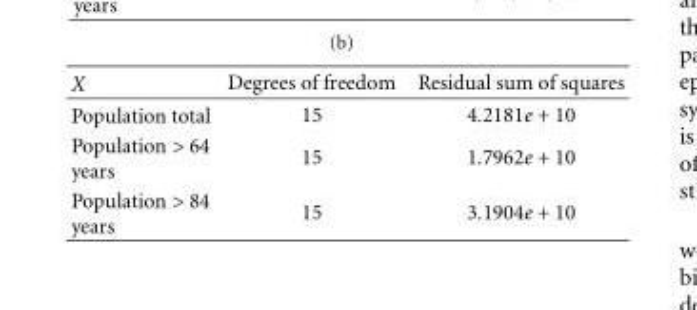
<table><thead><tr><td>X</td><td>Degrees of freedom</td><td>Residual sum of squares</td></tr></thead><tbody><tr><td>Population total</td><td>15</td><td>4.2181e + 10</td></tr><tr><td>Population &gt; 64 years</td><td>15</td><td>1.7962e + 10</td></tr><tr><td>Population &gt; 84 years</td><td>15</td><td>3.1904e + 10</td></tr></tbody></table>